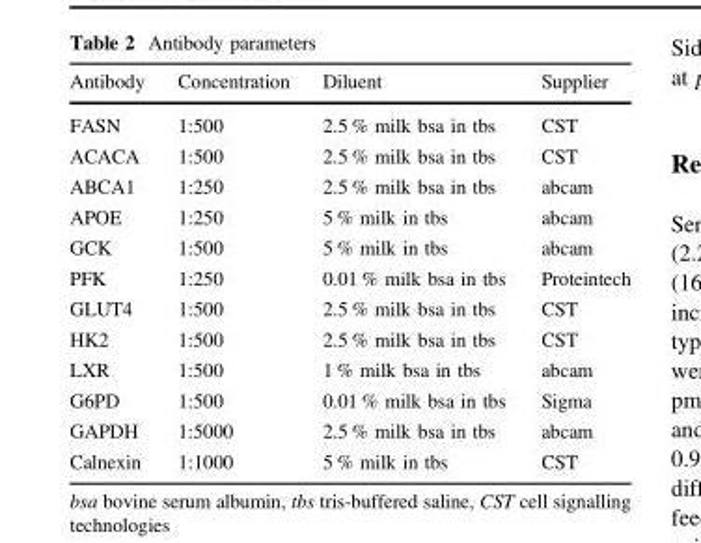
<table><thead><tr><td>Antibody</td><td>Concentration</td><td>Diluent</td><td>Supplier</td></tr></thead><tbody><tr><td>FASN</td><td>1:500</td><td>2.5 % milk bsa in tbs</td><td>CST</td></tr><tr><td>ACACA</td><td>1:500</td><td>2.5 % milk bsa in tbs</td><td>CST</td></tr><tr><td>ABCA1</td><td>1:250</td><td>2.5 % milk bsa in tbs</td><td>abcam</td></tr><tr><td>APOE</td><td>1:250</td><td>5 % milk in tbs</td><td>abcam</td></tr><tr><td>GCK</td><td>1:500</td><td>5 % milk in tbs</td><td>abcam</td></tr><tr><td>PFK</td><td>1:250</td><td>0.01 % milk bsa in tbs</td><td>Proteintech</td></tr><tr><td>GLUT4</td><td>1:500</td><td>2.5 % milk bsa in tbs</td><td>CST</td></tr><tr><td>HK2</td><td>1:500</td><td>2.5 % milk bsa in tbs</td><td>CST</td></tr><tr><td>LXR</td><td>1:500</td><td>1 % milk bsa in tbs</td><td>abcam</td></tr><tr><td>G6PD</td><td>1:500</td><td>0.01 % milk bsa in tbs</td><td>Sigma</td></tr><tr><td>GAPDH</td><td>1:5000</td><td>2.5 % milk bsa in tbs</td><td>abcam</td></tr><tr><td>Calnexin</td><td>1:1000</td><td>5 % milk in tbs</td><td>CST</td></tr></tbody></table>